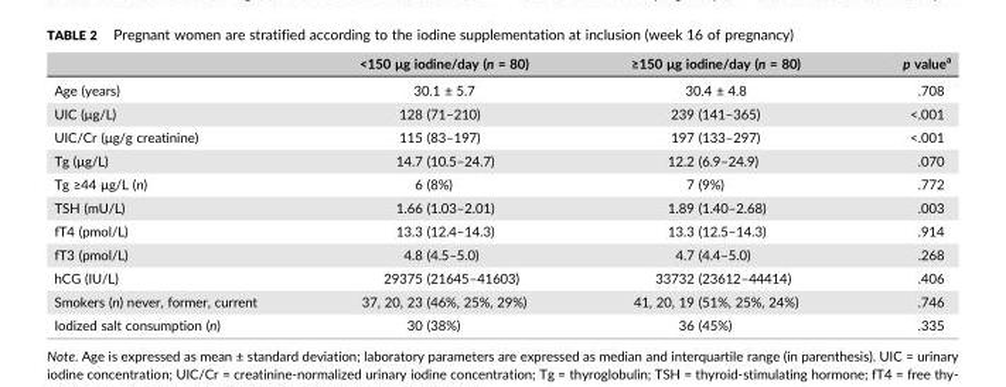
<table><thead><tr><td></td><td>&lt;150 μg iodine/day (n = 80)</td><td>≥150 μg iodine/day (n = 80)</td><td>p value<sup>a</sup></td></tr></thead><tbody><tr><td>Age (years)</td><td>30.1 ± 5.7</td><td>30.4 ± 4.8</td><td>.708</td></tr><tr><td>UIC (μg/L)</td><td>128 (71–210)</td><td>239 (141–365)</td><td>&lt;.001</td></tr><tr><td>UIC/Cr (μg/g creatinine)</td><td>115 (83–197)</td><td>197 (133–297)</td><td>&lt;.001</td></tr><tr><td>Tg (μg/L)</td><td>14.7 (10.5–24.7)</td><td>12.2 (6.9–24.9)</td><td>.070</td></tr><tr><td>Tg ≥44 μg/L (n)</td><td>6 (8%)</td><td>7 (9%)</td><td>.772</td></tr><tr><td>TSH (mU/L)</td><td>1.66 (1.03–2.01)</td><td>1.89 (1.40–2.68)</td><td>.003</td></tr><tr><td>fT4 (pmol/L)</td><td>13.3 (12.4–14.3)</td><td>13.3 (12.5–14.3)</td><td>.914</td></tr><tr><td>fT3 (pmol/L)</td><td>4.8 (4.5–5.0)</td><td>4.7 (4.4–5.0)</td><td>.268</td></tr><tr><td>hCG (IU/L)</td><td>29375 (21645–41603)</td><td>33732 (23612–44414)</td><td>.406</td></tr><tr><td>Smokers (n) never, former, current</td><td>37, 20, 23 (46%, 25%, 29%)</td><td>41, 20, 19 (51%, 25%, 24%)</td><td>.746</td></tr><tr><td>Iodized salt consumption (n)</td><td>30 (38%)</td><td>36 (45%)</td><td>.335</td></tr></tbody></table>